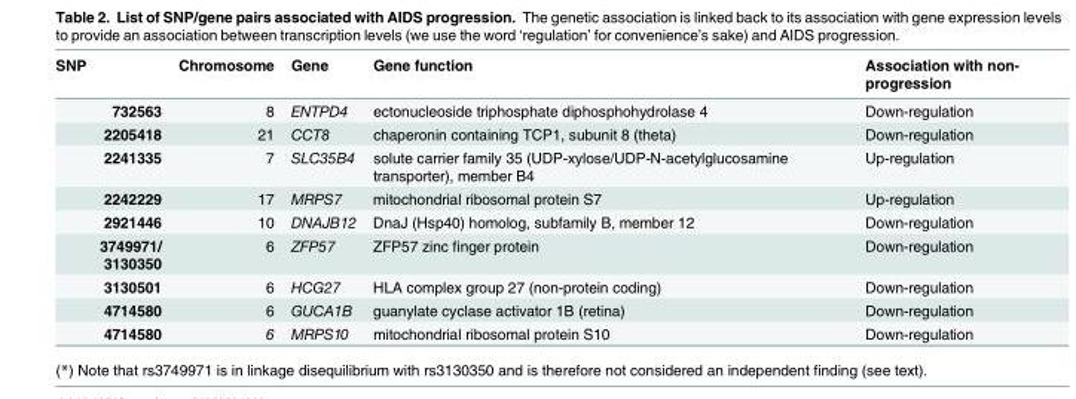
<table><thead><tr><td>SNP</td><td>Chromosome</td><td>Gene</td><td>Gene function</td><td>Association with non- progression</td></tr></thead><tbody><tr><td>732563</td><td>8</td><td>ENTPD4</td><td>ectonucleoside triphosphate diphosphohydrolase 4</td><td>Down-regulation</td></tr><tr><td>2205418</td><td>21</td><td>CCT8</td><td>chaperonin containing TCP1, subunit 8 (theta)</td><td>Down-regulation</td></tr><tr><td>2241335</td><td>7</td><td>SLC35B4</td><td>solute carrier family 35 (UDP-xylose/UDP-N-acetylglucosamine transporter), member B4</td><td>Up-regulation</td></tr><tr><td>2242229</td><td>17</td><td>MRPS7</td><td>mitochondrial ribosomal protein S7</td><td>Up-regulation</td></tr><tr><td>2921446</td><td>10</td><td>DNAJB12</td><td>DnaJ (Hsp40) homolog, subfamily B, member 12</td><td>Down-regulation</td></tr><tr><td>3749971/ 3130350</td><td>6</td><td>ZFP57</td><td>ZFP57 zinc finger protein</td><td>Down-regulation</td></tr><tr><td>3130501</td><td>6</td><td>HCG27</td><td>HLA complex group 27 (non-protein coding)</td><td>Down-regulation</td></tr><tr><td>4714580</td><td>6</td><td>GUCA1B</td><td>guanylate cyclase activator 1B (retina)</td><td>Down-regulation</td></tr><tr><td>4714580</td><td>6</td><td>MRPS10</td><td>mitochondrial ribosomal protein S10</td><td>Down-regulation</td></tr></tbody></table>